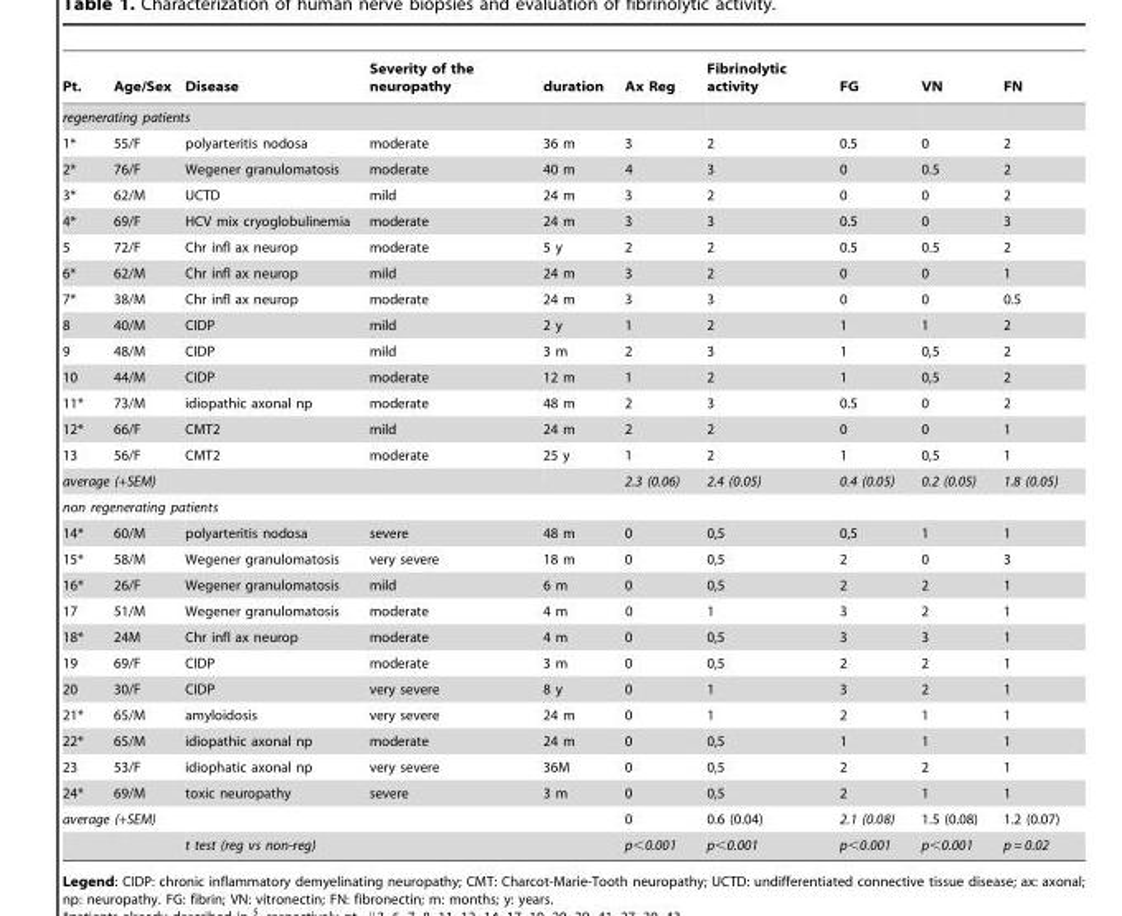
<table><thead><tr><td>Pt.</td><td>Age/Sex</td><td>Disease</td><td>Severity of the neuropathy</td><td>duration</td><td>Ax Reg</td><td>Fibrinolytic activity</td><td>FG</td><td>VN</td><td>FN</td></tr></thead><tbody><tr><td colspan="10">regenerating patients</td></tr><tr><td>1*</td><td>55/F</td><td>polyarteritis nodosa</td><td>moderate</td><td>36 m</td><td>3</td><td>2</td><td>0.5</td><td>0</td><td>2</td></tr><tr><td>2*</td><td>76/F</td><td>Wegener granulomatosis</td><td>moderate</td><td>40 m</td><td>4</td><td>3</td><td>0</td><td>0.5</td><td>2</td></tr><tr><td>3*</td><td>62/M</td><td>UCTD</td><td>mild</td><td>24 m</td><td>3</td><td>2</td><td>0</td><td>0</td><td>2</td></tr><tr><td>4*</td><td>69/F</td><td>HCV mix cryoglobulinemia</td><td>moderate</td><td>24 m</td><td>3</td><td>3</td><td>0.5</td><td>0</td><td>3</td></tr><tr><td>5</td><td>72/F</td><td>Chr infl ax neurop</td><td>moderate</td><td>5 y</td><td>2</td><td>2</td><td>0.5</td><td>0.5</td><td>2</td></tr><tr><td>6*</td><td>62/M</td><td>Chr infl ax neurop</td><td>mild</td><td>24 m</td><td>3</td><td>2</td><td>0</td><td>0</td><td>1</td></tr><tr><td>7*</td><td>38/M</td><td>Chr infl ax neurop</td><td>moderate</td><td>24 m</td><td>3</td><td>3</td><td>0</td><td>0</td><td>0.5</td></tr><tr><td>8</td><td>40/M</td><td>CIDP</td><td>mild</td><td>2 y</td><td>1</td><td>2</td><td>1</td><td>1</td><td>2</td></tr><tr><td>9</td><td>48/M</td><td>CIDP</td><td>mild</td><td>3 m</td><td>2</td><td>3</td><td>1</td><td>0,5</td><td>2</td></tr><tr><td>10</td><td>44/M</td><td>CIDP</td><td>moderate</td><td>12 m</td><td>1</td><td>2</td><td>1</td><td>0,5</td><td>2</td></tr><tr><td>11*</td><td>73/M</td><td>idiopathic axonal np</td><td>moderate</td><td>48 m</td><td>2</td><td>3</td><td>0.5</td><td>0</td><td>2</td></tr><tr><td>12*</td><td>66/F</td><td>CMT2</td><td>mild</td><td>24 m</td><td>2</td><td>2</td><td>0</td><td>0</td><td>1</td></tr><tr><td>13</td><td>56/F</td><td>CMT2</td><td>moderate</td><td>25 y</td><td>1</td><td>2</td><td>1</td><td>0,5</td><td>1</td></tr><tr><td colspan="3">average (+SEM)</td><td></td><td></td><td>2.3 (0.06)</td><td>2.4 (0.05)</td><td>0.4 (0.05)</td><td>0.2 (0.05)</td><td>1.8 (0.05)</td></tr><tr><td colspan="10">non regenerating patients</td></tr><tr><td>14*</td><td>60/M</td><td>polyarteritis nodosa</td><td>severe</td><td>48 m</td><td>0</td><td>0,5</td><td>0,5</td><td>1</td><td>1</td></tr><tr><td>15*</td><td>58/M</td><td>Wegener granulomatosis</td><td>very severe</td><td>18 m</td><td>0</td><td>0,5</td><td>2</td><td>0</td><td>3</td></tr><tr><td>16*</td><td>26/F</td><td>Wegener granulomatosis</td><td>mild</td><td>6 m</td><td>0</td><td>0,5</td><td>2</td><td>2</td><td>1</td></tr><tr><td>17</td><td>51/M</td><td>Wegener granulomatosis</td><td>moderate</td><td>4 m</td><td>0</td><td>1</td><td>3</td><td>2</td><td>1</td></tr><tr><td>18*</td><td>24M</td><td>Chr infl ax neurop</td><td>moderate</td><td>4 m</td><td>0</td><td>0,5</td><td>3</td><td>3</td><td>1</td></tr><tr><td>19</td><td>69/F</td><td>CIDP</td><td>moderate</td><td>3 m</td><td>0</td><td>0,5</td><td>2</td><td>2</td><td>1</td></tr><tr><td>20</td><td>30/F</td><td>CIDP</td><td>very severe</td><td>8 y</td><td>0</td><td>1</td><td>3</td><td>2</td><td>1</td></tr><tr><td>21*</td><td>65/M</td><td>amyloidosis</td><td>very severe</td><td>24 m</td><td>0</td><td>1</td><td>2</td><td>1</td><td>1</td></tr><tr><td>22*</td><td>65/M</td><td>idiopathic axonal np</td><td>moderate</td><td>24 m</td><td>0</td><td>0,5</td><td>1</td><td>1</td><td>1</td></tr><tr><td>23</td><td>53/F</td><td>idiophatic axonal np</td><td>very severe</td><td>36M</td><td>0</td><td>0,5</td><td>2</td><td>2</td><td>1</td></tr><tr><td>24*</td><td>69/M</td><td>toxic neuropathy</td><td>severe</td><td>3 m</td><td>0</td><td>0,5</td><td>2</td><td>1</td><td>1</td></tr><tr><td colspan="3">average (+SEM)</td><td></td><td></td><td>0</td><td>0.6 (0.04)</td><td>2.1 (0.08)</td><td>1.5 (0.08)</td><td>1.2 (0.07)</td></tr><tr><td></td><td></td><td>t test (reg vs non-reg)</td><td colspan="2"></td><td>p&lt;0.001</td><td>p&lt;0.001</td><td>p&lt;0.001</td><td>p&lt;0.001</td><td>p = 0.02</td></tr></tbody></table>